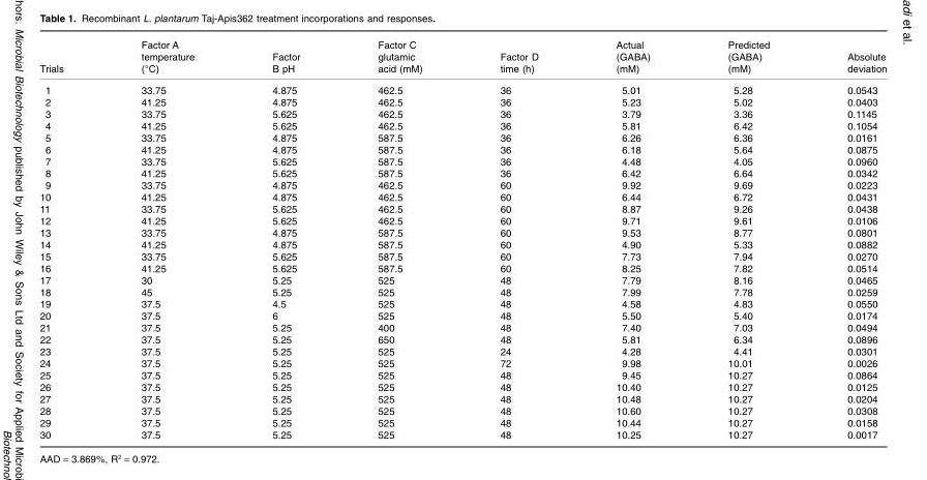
<table><thead><tr><td>Trials</td><td>Factor A temperature (°C)</td><td>Factor B pH</td><td>Factor C glutamic acid (mM)</td><td>Factor D time (h)</td><td>Actual (GABA) (mM)</td><td>Predicted (GABA) (mM)</td><td>Absolute deviation</td></tr></thead><tbody><tr><td>1</td><td>33.75</td><td>4.875</td><td>462.5</td><td>36</td><td>5.01</td><td>5.28</td><td>0.0543</td></tr><tr><td>2</td><td>41.25</td><td>4.875</td><td>462.5</td><td>36</td><td>5.23</td><td>5.02</td><td>0.0403</td></tr><tr><td>3</td><td>33.75</td><td>5.625</td><td>462.5</td><td>36</td><td>3.79</td><td>3.36</td><td>0.1145</td></tr><tr><td>4</td><td>41.25</td><td>5.625</td><td>462.5</td><td>36</td><td>5.81</td><td>6.42</td><td>0.1054</td></tr><tr><td>5</td><td>33.75</td><td>4.875</td><td>587.5</td><td>36</td><td>6.26</td><td>6.36</td><td>0.0161</td></tr><tr><td>6</td><td>41.25</td><td>4.875</td><td>587.5</td><td>36</td><td>6.18</td><td>5.64</td><td>0.0875</td></tr><tr><td>7</td><td>33.75</td><td>5.625</td><td>587.5</td><td>36</td><td>4.48</td><td>4.05</td><td>0.0960</td></tr><tr><td>8</td><td>41.25</td><td>5.625</td><td>587.5</td><td>36</td><td>6.42</td><td>6.64</td><td>0.0342</td></tr><tr><td>9</td><td>33.75</td><td>4.875</td><td>462.5</td><td>60</td><td>9.92</td><td>9.69</td><td>0.0223</td></tr><tr><td>10</td><td>41.25</td><td>4.875</td><td>462.5</td><td>60</td><td>6.44</td><td>6.72</td><td>0.0431</td></tr><tr><td>11</td><td>33.75</td><td>5.625</td><td>462.5</td><td>60</td><td>8.87</td><td>9.26</td><td>0.0438</td></tr><tr><td>12</td><td>41.25</td><td>5.625</td><td>462.5</td><td>60</td><td>9.71</td><td>9.61</td><td>0.0106</td></tr><tr><td>13</td><td>33.75</td><td>4.875</td><td>587.5</td><td>60</td><td>9.53</td><td>8.77</td><td>0.0801</td></tr><tr><td>14</td><td>41.25</td><td>4.875</td><td>587.5</td><td>60</td><td>4.90</td><td>5.33</td><td>0.0882</td></tr><tr><td>15</td><td>33.75</td><td>5.625</td><td>587.5</td><td>60</td><td>7.73</td><td>7.94</td><td>0.0270</td></tr><tr><td>16</td><td>41.25</td><td>5.625</td><td>587.5</td><td>60</td><td>8.25</td><td>7.82</td><td>0.0514</td></tr><tr><td>17</td><td>30</td><td>5.25</td><td>525</td><td>48</td><td>7.79</td><td>8.16</td><td>0.0465</td></tr><tr><td>18</td><td>45</td><td>5.25</td><td>525</td><td>48</td><td>7.99</td><td>7.78</td><td>0.0259</td></tr><tr><td>19</td><td>37.5</td><td>4.5</td><td>525</td><td>48</td><td>4.58</td><td>4.83</td><td>0.0550</td></tr><tr><td>20</td><td>37.5</td><td>6</td><td>525</td><td>48</td><td>5.50</td><td>5.40</td><td>0.0174</td></tr><tr><td>21</td><td>37.5</td><td>5.25</td><td>400</td><td>48</td><td>7.40</td><td>7.03</td><td>0.0494</td></tr><tr><td>22</td><td>37.5</td><td>5.25</td><td>650</td><td>48</td><td>5.81</td><td>6.34</td><td>0.0896</td></tr><tr><td>23</td><td>37.5</td><td>5.25</td><td>525</td><td>24</td><td>4.28</td><td>4.41</td><td>0.0301</td></tr><tr><td>24</td><td>37.5</td><td>5.25</td><td>525</td><td>72</td><td>9.98</td><td>10.01</td><td>0.0026</td></tr><tr><td>25</td><td>37.5</td><td>5.25</td><td>525</td><td>48</td><td>9.45</td><td>10.27</td><td>0.0864</td></tr><tr><td>26</td><td>37.5</td><td>5.25</td><td>525</td><td>48</td><td>10.40</td><td>10.27</td><td>0.0125</td></tr><tr><td>27</td><td>37.5</td><td>5.25</td><td>525</td><td>48</td><td>10.48</td><td>10.27</td><td>0.0204</td></tr><tr><td>28</td><td>37.5</td><td>5.25</td><td>525</td><td>48</td><td>10.60</td><td>10.27</td><td>0.0308</td></tr><tr><td>29</td><td>37.5</td><td>5.25</td><td>525</td><td>48</td><td>10.44</td><td>10.27</td><td>0.0158</td></tr><tr><td>30</td><td>37.5</td><td>5.25</td><td>525</td><td>48</td><td>10.25</td><td>10.27</td><td>0.0017</td></tr></tbody></table>